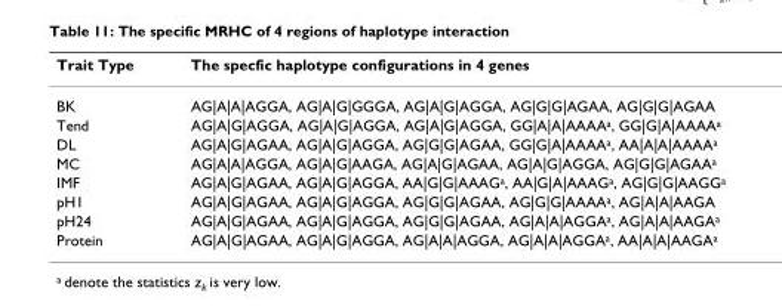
<table><thead><tr><td>Trait Type</td><td>The specfic haplotype configurations in 4 genes</td></tr></thead><tbody><tr><td>BK</td><td>AG|A|A|AGGA, AG|A|G|GGGA, AG|A|G|AGGA, AG|G|G|AGAA, AG|G|G|AGAA</td></tr><tr><td>Tend</td><td>AG|A|G|AGGA, AG|A|G|AGGA, AG|A|G|AGGA, GG|A|A|AAAA<sup>a</sup>, GG|G|A|AAAA<sup>a</sup></td></tr><tr><td>DL</td><td>AG|A|G|AGAA, AG|A|G|AGGA, AG|G|G|AGAA, GG|G|A|AAAA<sup>a</sup>, AA|A|A|AAAA<sup>a</sup></td></tr><tr><td>MC</td><td>AG|A|A|AGGA, AG|A|G|AAGA, AG|A|G|AGAA, AG|A|G|AGGA, AG|G|G|AGAA<sup>a</sup></td></tr><tr><td>IMF</td><td>AG|A|G|AGAA, AG|A|G|AGGA, AA|G|G|AAAG<sup>a</sup>, AA|G|A|AAAG<sup>a</sup>, AG|G|G|AAGG<sup>a</sup></td></tr><tr><td>pH1</td><td>AG|A|G|AGAA, AG|A|G|AGGA, AG|G|G|AGAA, AG|G|G|AAAA<sup>a</sup>, AG|A|A|AAGA</td></tr><tr><td>pH24</td><td>AG|A|G|AGAA, AG|A|G|AGGA, AG|G|G|AGAA, AG|A|A|AGGA<sup>a</sup>, AG|A|A|AAGA<sup>a</sup></td></tr><tr><td>Protein</td><td>AG|A|G|AGAA, AG|A|G|AGGA, AG|A|A|AGGA, AG|A|A|AGGA<sup>a</sup>, AA|A|A|AAGA<sup>a</sup></td></tr></tbody></table>